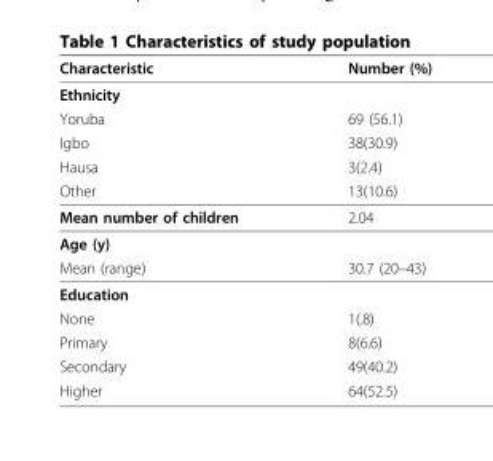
<table><thead><tr><td>Characteristic</td><td>Number (%)</td></tr></thead><tbody><tr><td colspan="2">Ethnicity</td></tr><tr><td>Yoruba</td><td>69 (56.1)</td></tr><tr><td>Igbo</td><td>38(30.9)</td></tr><tr><td>Hausa</td><td>3(2.4)</td></tr><tr><td>Other</td><td>13(10.6)</td></tr><tr><td>Mean number of children</td><td>2.04</td></tr><tr><td colspan="2">Age (y)</td></tr><tr><td>Mean (range)</td><td>30.7 (20–43)</td></tr><tr><td colspan="2">Education</td></tr><tr><td>None</td><td>1(.8)</td></tr><tr><td>Primary</td><td>8(6.6)</td></tr><tr><td>Secondary</td><td>49(40.2)</td></tr><tr><td>Higher</td><td>64(52.5)</td></tr></tbody></table>